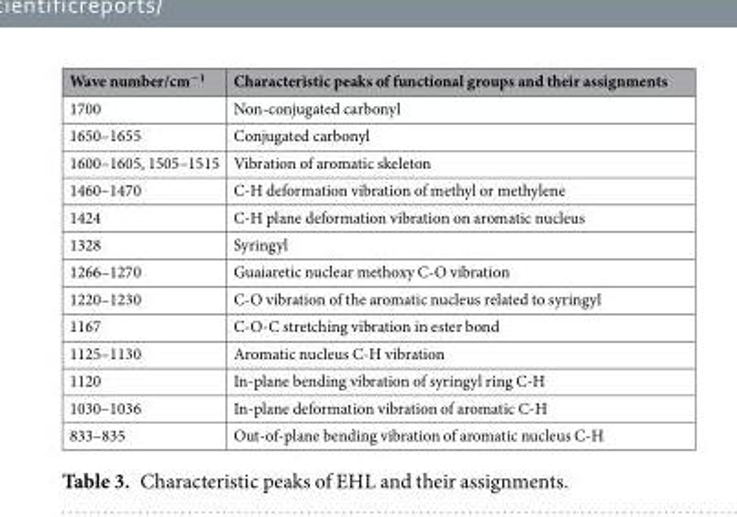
<table><thead><tr><td>Wave number/cm<sup>−1</sup></td><td>Characteristic peaks of functional groups and their assignments</td></tr></thead><tbody><tr><td>1700</td><td>Non-conjugated carbonyl</td></tr><tr><td>1650–1655</td><td>Conjugated carbonyl</td></tr><tr><td>1600–1605, 1505–1515</td><td>Vibration of aromatic skeleton</td></tr><tr><td>1460–1470</td><td>C-H deformation vibration of methyl or methylene</td></tr><tr><td>1424</td><td>C-H plane deformation vibration on aromatic nucleus</td></tr><tr><td>1328</td><td>Syringyl</td></tr><tr><td>1266–1270</td><td>Guaiaretic nuclear methoxy C-O vibration</td></tr><tr><td>1220–1230</td><td>C-O vibration of the aromatic nucleus related to syringyl</td></tr><tr><td>1167</td><td>C-O-C stretching vibration in ester bond</td></tr><tr><td>1125–1130</td><td>Aromatic nucleus C-H vibration</td></tr><tr><td>1120</td><td>In-plane bending vibration of syringyl ring C-H</td></tr><tr><td>1030–1036</td><td>In-plane deformation vibration of aromatic C-H</td></tr><tr><td>833–835</td><td>Out-of-plane bending vibration of aromatic nucleus C-H</td></tr></tbody></table>